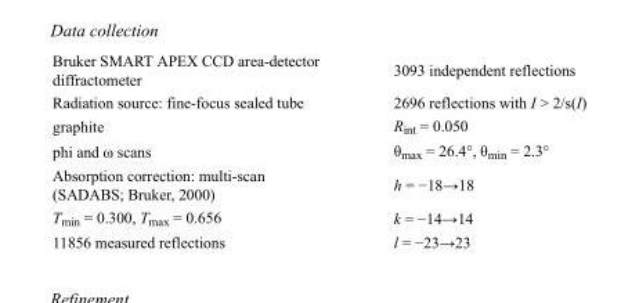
<table><tbody><tr><td>Bruker SMART APEX CCD area-detector diffractometer</td><td>3093 independent reflections</td></tr><tr><td>Radiation source: fine-focus sealed tube</td><td>2696 reflections with I &gt; 2/s(I)</td></tr><tr><td>graphite</td><td>R<sub>int</sub> = 0.050</td></tr><tr><td>phi and ω scans</td><td>θ<sub>max</sub> = 26.4°, θ<sub>min</sub> = 2.3°</td></tr><tr><td>Absorption correction: multi-scan (SADABS; Bruker, 2000)</td><td>h = −18→18</td></tr><tr><td>T<sub>min</sub> = 0.300, T<sub>max</sub> = 0.656</td><td>k = −14→14</td></tr><tr><td>11856 measured reflections</td><td>l = −23→23</td></tr></tbody></table>